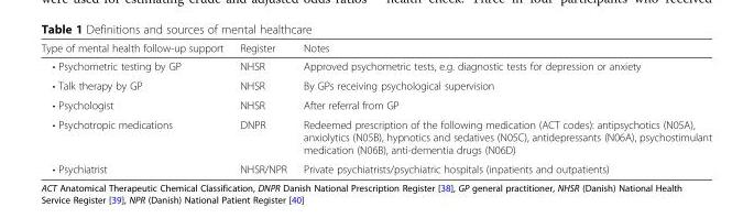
<table><thead><tr><td>Type of mental health follow-up support</td><td>Register</td><td>Notes</td></tr></thead><tbody><tr><td>• Psychometric testing by GP</td><td>NHSR</td><td>Approved psychometric tests, e.g. diagnostic tests for depression or anxiety</td></tr><tr><td>• Talk therapy by GP</td><td>NHSR</td><td>By GPs receiving psychological supervision</td></tr><tr><td>• Psychologist</td><td>NHSR</td><td>After referral from GP</td></tr><tr><td>• Psychotropic medications</td><td>DNPR</td><td>Redeemed prescription of the following medication (ACT codes): antipsychotics (N05A), anxiolytics (N05B), hypnotics and sedatives (N05C), antidepressants (N06A), psychostimulant medication (N06B), anti-dementia drugs (N06D)</td></tr><tr><td>• Psychiatrist</td><td>NHSR/NPR</td><td>Private psychiatrists/psychiatric hospitals (inpatients and outpatients)</td></tr></tbody></table>